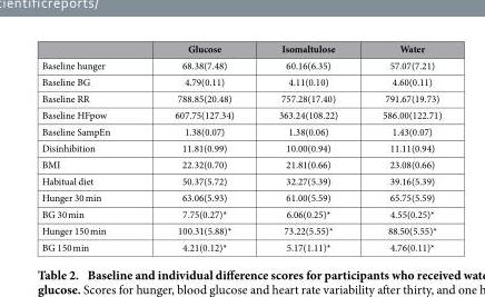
<table><thead><tr><td></td><td>Glucose</td><td>Isomaltulose</td><td>Water</td></tr></thead><tbody><tr><td>Baseline hunger</td><td>68.38(7.48)</td><td>60.16(6.35)</td><td>57.07(7.21)</td></tr><tr><td>Baseline BG</td><td>4.79(0.11)</td><td>4.11(0.10)</td><td>4.60(0.11)</td></tr><tr><td>Baseline RR</td><td>788.85(20.48)</td><td>757.28(17.40)</td><td>791.67(19.73)</td></tr><tr><td>Baseline HFpow</td><td>607.75(127.34)</td><td>363.24(108.22)</td><td>586.00(122.71)</td></tr><tr><td>Baseline SampEn</td><td>1.38(0.07)</td><td>1.38(0.06)</td><td>1.43(0.07)</td></tr><tr><td>Disinhibition</td><td>11.81(0.99)</td><td>10.00(0.94)</td><td>11.11(0.94)</td></tr><tr><td>BMI</td><td>22.32(0.70)</td><td>21.81(0.66)</td><td>23.08(0.66)</td></tr><tr><td>Habitual diet</td><td>50.37(5.72)</td><td>32.27(5.39)</td><td>39.16(5.39)</td></tr><tr><td>Hunger 30 min</td><td>63.06(5.93)</td><td>61.00(5.59)</td><td>65.75(5.59)</td></tr><tr><td>BG 30 min</td><td>7.75(0.27)*</td><td>6.06(0.25)*</td><td>4.55(0.25)*</td></tr><tr><td>Hunger 150 min</td><td>100.31(5.88)*</td><td>73.22(5.55)*</td><td>88.50(5.55)*</td></tr><tr><td>BG 150 min</td><td>4.21(0.12)*</td><td>5.17(1.11)*</td><td>4.76(0.11)*</td></tr></tbody></table>